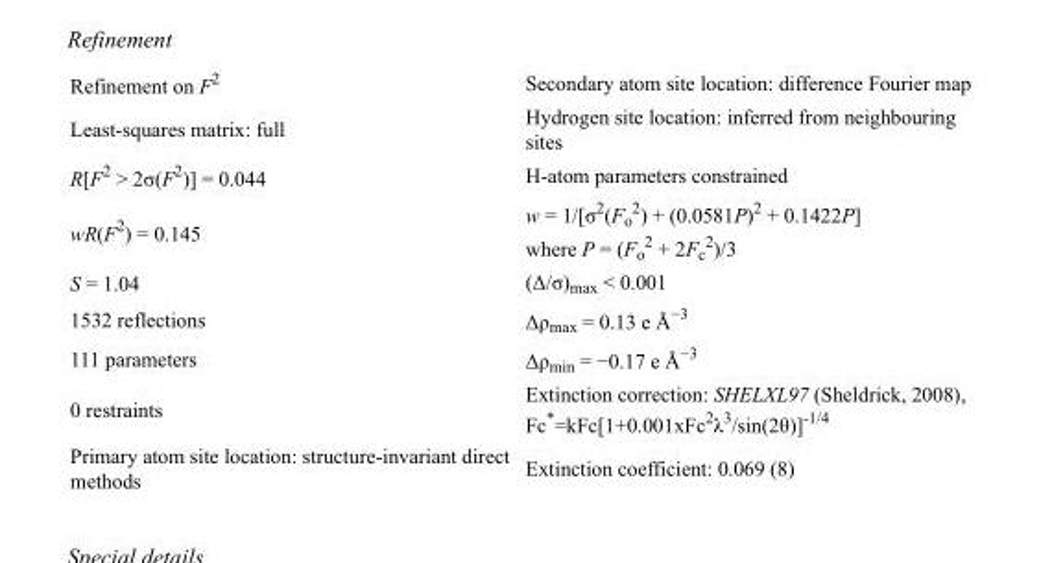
<table><tbody><tr><td>Refinement on F<sup>2</sup></td><td>Secondary atom site location: difference Fourier map</td></tr><tr><td>Least-squares matrix: full</td><td>Hydrogen site location: inferred from neighbouring sites</td></tr><tr><td>R[F<sup>2</sup> &gt; 2σ(F<sup>2</sup>)] = 0.044</td><td>H-atom parameters constrained</td></tr><tr><td>wR(F<sup>2</sup>) = 0.145</td><td>w = 1/[σ<sup>2</sup>(F<sub>o</sub> <sup>2</sup>) + (0.0581P)<sup>2</sup> + 0.1422P] where P = (F<sub>o</sub> <sup>2</sup> + 2F<sub>c</sub> <sup>2</sup>)/3</td></tr><tr><td>S = 1.04</td><td>(Δ/σ)<sub>max</sub> &lt; 0.001</td></tr><tr><td>1532 reflections</td><td>Δρ<sub>max</sub> = 0.13 e Å<sup>−3</sup></td></tr><tr><td>111 parameters</td><td>Δρ<sub>min</sub> = −0.17 e Å<sup>−3</sup></td></tr><tr><td>0 restraints</td><td>Extinction correction: SHELXL97 (Sheldrick, 2008), Fc*=kFc[1+0.001xFc<sup>2</sup>λ<sup>3</sup>/sin(2θ)]<sup>-1/4</sup></td></tr><tr><td>Primary atom site location: structure-invariant direct methods</td><td>Extinction coefficient: 0.069 (8)</td></tr></tbody></table>